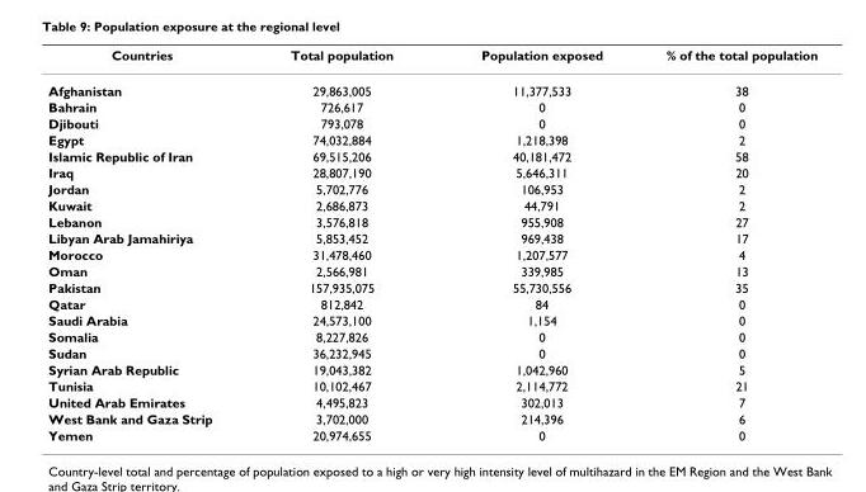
<table><thead><tr><td>Countries</td><td>Total population</td><td>Population exposed</td><td>% of the total population</td></tr></thead><tbody><tr><td>Afghanistan</td><td>29,863,005</td><td>11,377,533</td><td>38</td></tr><tr><td>Bahrain</td><td>726,617</td><td>0</td><td>0</td></tr><tr><td>Djibouti</td><td>793,078</td><td>0</td><td>0</td></tr><tr><td>Egypt</td><td>74,032,884</td><td>1,218,398</td><td>2</td></tr><tr><td>Islamic Republic of Iran</td><td>69,515,206</td><td>40,181,472</td><td>58</td></tr><tr><td>Iraq</td><td>28,807,190</td><td>5,646,311</td><td>20</td></tr><tr><td>Jordan</td><td>5,702,776</td><td>106,953</td><td>2</td></tr><tr><td>Kuwait</td><td>2,686,873</td><td>44,791</td><td>2</td></tr><tr><td>Lebanon</td><td>3,576,818</td><td>955,908</td><td>27</td></tr><tr><td>Libyan Arab Jamahiriya</td><td>5,853,452</td><td>969,438</td><td>17</td></tr><tr><td>Morocco</td><td>31,478,460</td><td>1,207,577</td><td>4</td></tr><tr><td>Oman</td><td>2,566,981</td><td>339,985</td><td>13</td></tr><tr><td>Pakistan</td><td>157,935,075</td><td>55,730,556</td><td>35</td></tr><tr><td>Qatar</td><td>812,842</td><td>84</td><td>0</td></tr><tr><td>Saudi Arabia</td><td>24,573,100</td><td>1,154</td><td>0</td></tr><tr><td>Somalia</td><td>8,227,826</td><td>0</td><td>0</td></tr><tr><td>Sudan</td><td>36,232,945</td><td>0</td><td>0</td></tr><tr><td>Syrian Arab Republic</td><td>19,043,382</td><td>1,042,960</td><td>5</td></tr><tr><td>Tunisia</td><td>10,102,467</td><td>2,114,772</td><td>21</td></tr><tr><td>United Arab Emirates</td><td>4,495,823</td><td>302,013</td><td>7</td></tr><tr><td>West Bank and Gaza Strip</td><td>3,702,000</td><td>214,396</td><td>6</td></tr><tr><td>Yemen</td><td>20,974,655</td><td>0</td><td>0</td></tr></tbody></table>